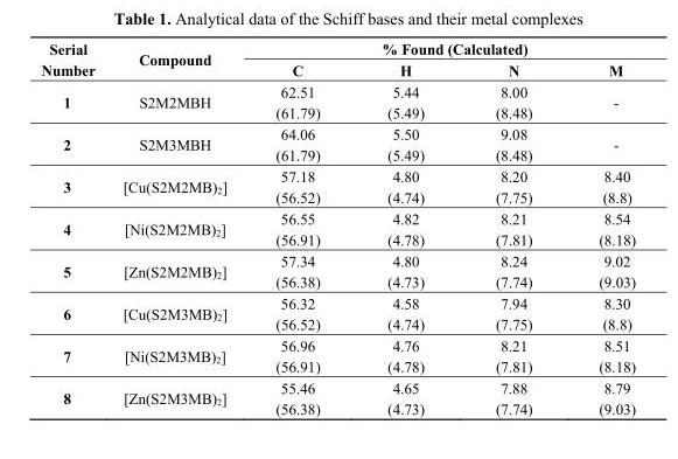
<table><thead><tr><td rowspan="2">Serial Number</td><td rowspan="2">Compound</td><td colspan="4">% Found (Calculated)</td></tr><tr><td>C</td><td>H</td><td>N</td><td>M</td></tr></thead><tbody><tr><td>1</td><td>S2M2MBH</td><td>62.51 (61.79)</td><td>5.44 (5.49)</td><td>8.00 (8.48)</td><td>-</td></tr><tr><td>2</td><td>S2M3MBH</td><td>64.06 (61.79)</td><td>5.50 (5.49)</td><td>9.08 (8.48)</td><td>-</td></tr><tr><td>3</td><td>[Cu(S2M2MB)<sub>2</sub>]</td><td>57.18 (56.52)</td><td>4.80 (4.74)</td><td>8.20 (7.75)</td><td>8.40 (8.8)</td></tr><tr><td>4</td><td>[Ni(S2M2MB)<sub>2</sub>]</td><td>56.55 (56.91)</td><td>4.82 (4.78)</td><td>8.21 (7.81)</td><td>8.54 (8.18)</td></tr><tr><td>5</td><td>[Zn(S2M2MB)<sub>2</sub>]</td><td>57.34 (56.38)</td><td>4.80 (4.73)</td><td>8.24 (7.74)</td><td>9.02 (9.03)</td></tr><tr><td>6</td><td>[Cu(S2M3MB)<sub>2</sub>]</td><td>56.32 (56.52)</td><td>4.58 (4.74)</td><td>7.94 (7.75)</td><td>8.30 (8.8)</td></tr><tr><td>7</td><td>[Ni(S2M3MB)<sub>2</sub>]</td><td>56.96 (56.91)</td><td>4.76 (4.78)</td><td>8.21 (7.81)</td><td>8.51 (8.18)</td></tr><tr><td>8</td><td>[Zn(S2M3MB)<sub>2</sub>]</td><td>55.46 (56.38)</td><td>4.65 (4.73)</td><td>7.88 (7.74)</td><td>8.79 (9.03)</td></tr></tbody></table>